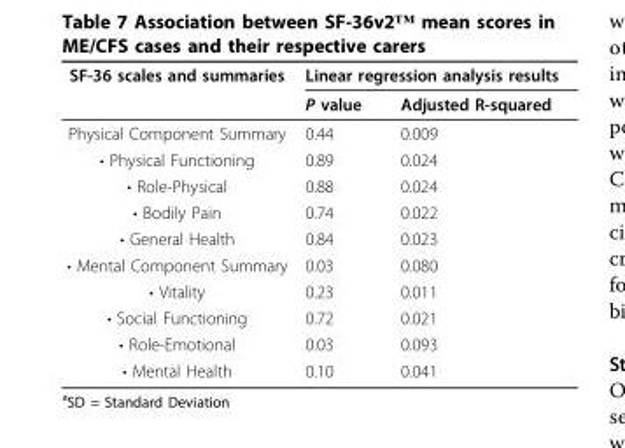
<table><thead><tr><td rowspan="2">SF-36 scales and summaries</td><td colspan="2">Linear regression analysis results</td></tr><tr><td>P value</td><td>Adjusted R-squared</td></tr></thead><tbody><tr><td>Physical Component Summary</td><td>0.44</td><td>0.009</td></tr><tr><td>• Physical Functioning</td><td>0.89</td><td>0.024</td></tr><tr><td>• Role-Physical</td><td>0.88</td><td>0.024</td></tr><tr><td>• Bodily Pain</td><td>0.74</td><td>0.022</td></tr><tr><td>• General Health</td><td>0.84</td><td>0.023</td></tr><tr><td>• Mental Component Summary</td><td>0.03</td><td>0.080</td></tr><tr><td>• Vitality</td><td>0.23</td><td>0.011</td></tr><tr><td>• Social Functioning</td><td>0.72</td><td>0.021</td></tr><tr><td>• Role-Emotional</td><td>0.03</td><td>0.093</td></tr><tr><td>• Mental Health</td><td>0.10</td><td>0.041</td></tr></tbody></table>